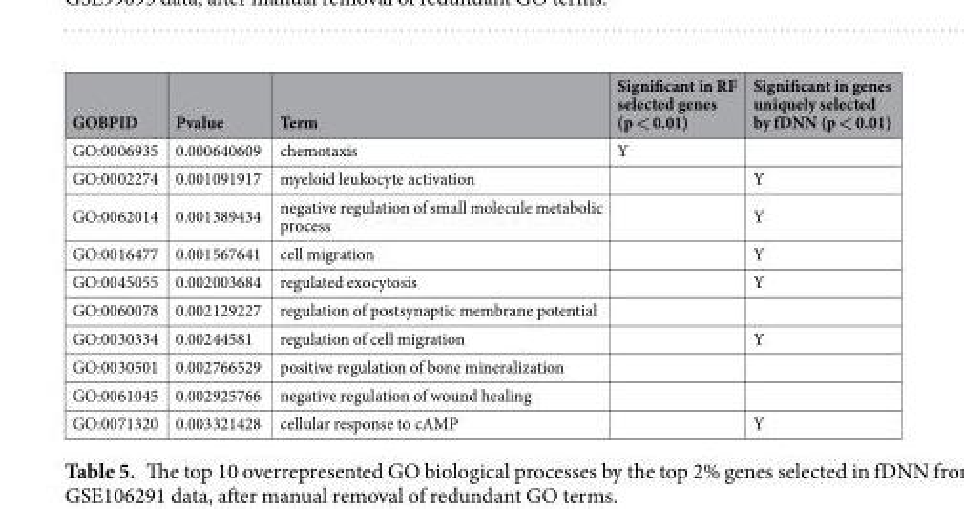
<table><thead><tr><td>GOBPID</td><td>Pvalue</td><td>Term</td><td>Significant in RF selected genes (p &lt; 0.01)</td><td>Significant in genes uniquely selected by fDNN (p &lt; 0.01)</td></tr></thead><tbody><tr><td>GO:0006935</td><td>0.000640609</td><td>chemotaxis</td><td>Y</td><td></td></tr><tr><td>GO:0002274</td><td>0.001091917</td><td>myeloid leukocyte activation</td><td></td><td>Y</td></tr><tr><td>GO:0062014</td><td>0.001389434</td><td>negative regulation of small molecule metabolic process</td><td></td><td>Y</td></tr><tr><td>GO:0016477</td><td>0.001567641</td><td>cell migration</td><td></td><td>Y</td></tr><tr><td>GO:0045055</td><td>0.002003684</td><td>regulated exocytosis</td><td></td><td>Y</td></tr><tr><td>GO:0060078</td><td>0.002129227</td><td>regulation of postsynaptic membrane potential</td><td></td><td></td></tr><tr><td>GO:0030334</td><td>0.00244581</td><td>regulation of cell migration</td><td></td><td>Y</td></tr><tr><td>GO:0030501</td><td>0.002766529</td><td>positive regulation of bone mineralization</td><td></td><td></td></tr><tr><td>GO:0061045</td><td>0.002925766</td><td>negative regulation of wound healing</td><td></td><td></td></tr><tr><td>GO:0071320</td><td>0.003321428</td><td>cellular response to cAMP</td><td></td><td>Y</td></tr></tbody></table>